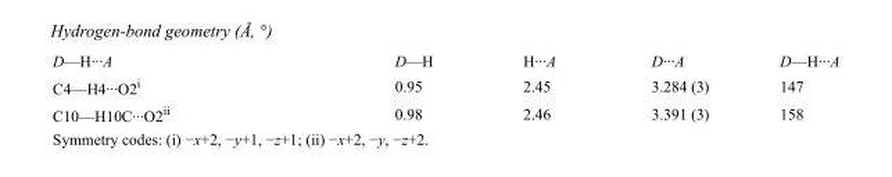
<table><tbody><tr><td>D—H···A</td><td>D—H</td><td>H···A</td><td>D···A</td><td>D—H···A</td></tr><tr><td>C4—H4···O2<sup>i</sup></td><td>0.95</td><td>2.45</td><td>3.284 (3)</td><td>147</td></tr><tr><td>C10—H10C···O2<sup>ii</sup></td><td>0.98</td><td>2.46</td><td>3.391 (3)</td><td>158</td></tr></tbody></table>